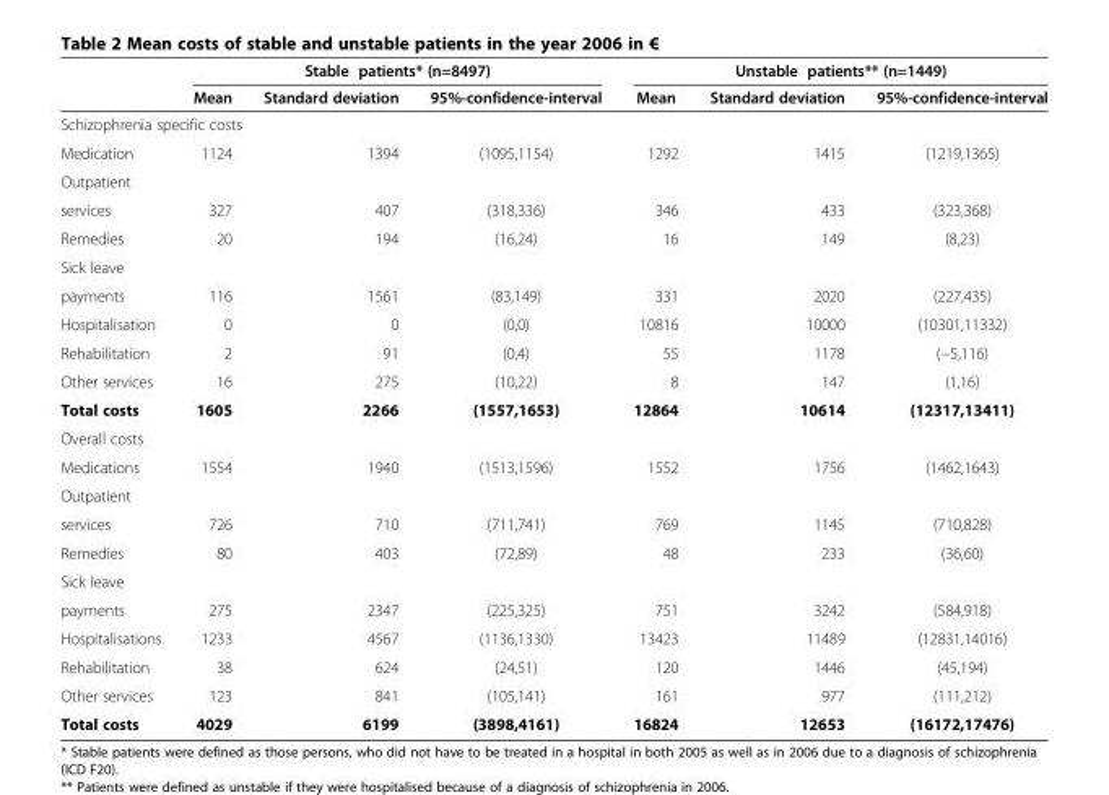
<table><thead><tr><td rowspan="2"></td><td colspan="3">Stable patients* (n=8497)</td><td colspan="3">Unstable patients** (n=1449)</td></tr><tr><td>Mean</td><td>Standard deviation</td><td>95%-confidence-interval</td><td>Mean</td><td>Standard deviation</td><td>95%-confidence-interval</td></tr></thead><tbody><tr><td colspan="7">Schizophrenia specific costs</td></tr><tr><td>Medication</td><td>1124</td><td>1394</td><td>(1095,1154)</td><td>1292</td><td>1415</td><td>(1219,1365)</td></tr><tr><td colspan="7">Outpatient</td></tr><tr><td>services</td><td>327</td><td>407</td><td>(318,336)</td><td>346</td><td>433</td><td>(323,368)</td></tr><tr><td>Remedies</td><td>20</td><td>194</td><td>(16,24)</td><td>16</td><td>149</td><td>(8,23)</td></tr><tr><td colspan="7">Sick leave</td></tr><tr><td>payments</td><td>116</td><td>1561</td><td>(83,149)</td><td>331</td><td>2020</td><td>(227,435)</td></tr><tr><td>Hospitalisation</td><td>0</td><td>0</td><td>(0,0)</td><td>10816</td><td>10000</td><td>(10301,11332)</td></tr><tr><td>Rehabilitation</td><td>2</td><td>91</td><td>(0,4)</td><td>55</td><td>1178</td><td>(−5,116)</td></tr><tr><td>Other services</td><td>16</td><td>275</td><td>(10,22)</td><td>8</td><td>147</td><td>(1,16)</td></tr><tr><td>Total costs</td><td>1605</td><td>2266</td><td>(1557,1653)</td><td>12864</td><td>10614</td><td>(12317,13411)</td></tr><tr><td colspan="7">Overall costs</td></tr><tr><td>Medications</td><td>1554</td><td>1940</td><td>(1513,1596)</td><td>1552</td><td>1756</td><td>(1462,1643)</td></tr><tr><td colspan="7">Outpatient</td></tr><tr><td>services</td><td>726</td><td>710</td><td>(711,741)</td><td>769</td><td>1145</td><td>(710,828)</td></tr><tr><td>Remedies</td><td>80</td><td>403</td><td>(72,89)</td><td>48</td><td>233</td><td>(36,60)</td></tr><tr><td colspan="7">Sick leave</td></tr><tr><td>payments</td><td>275</td><td>2347</td><td>(225,325)</td><td>751</td><td>3242</td><td>(584,918)</td></tr><tr><td>Hospitalisations</td><td>1233</td><td>4567</td><td>(1136,1330)</td><td>13423</td><td>11489</td><td>(12831,14016)</td></tr><tr><td>Rehabilitation</td><td>38</td><td>624</td><td>(24,51)</td><td>120</td><td>1446</td><td>(45,194)</td></tr><tr><td>Other services</td><td>123</td><td>841</td><td>(105,141)</td><td>161</td><td>977</td><td>(111,212)</td></tr><tr><td>Total costs</td><td>4029</td><td>6199</td><td>(3898,4161)</td><td>16824</td><td>12653</td><td>(16172,17476)</td></tr></tbody></table>